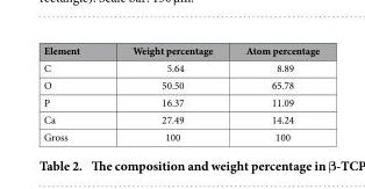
<table><thead><tr><td>Element</td><td>Weight percentage</td><td>Atom percentage</td></tr></thead><tbody><tr><td>C</td><td>5.64</td><td>8.89</td></tr><tr><td>O</td><td>50.50</td><td>65.78</td></tr><tr><td>P</td><td>16.37</td><td>11.09</td></tr><tr><td>Ca</td><td>27.49</td><td>14.24</td></tr><tr><td>Gross</td><td>100</td><td>100</td></tr></tbody></table>